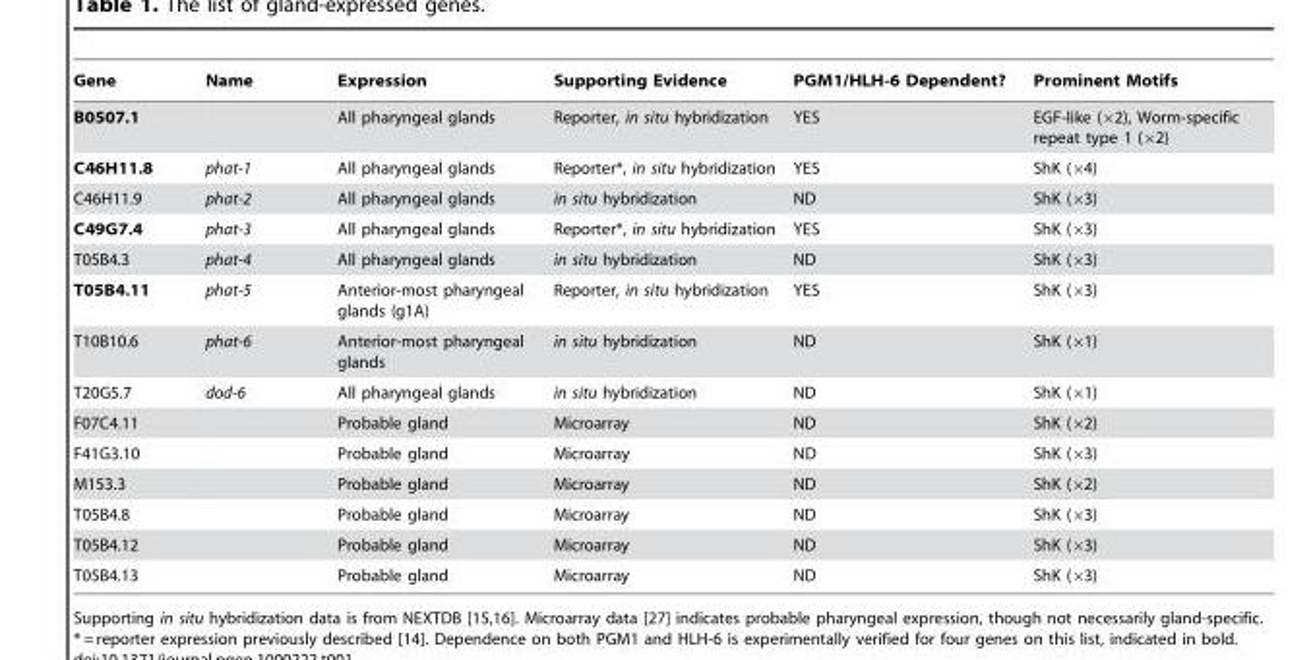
<table><thead><tr><td>Gene</td><td>Name</td><td>Expression</td><td>Supporting Evidence</td><td>PGM1/HLH-6 Dependent?</td><td>Prominent Motifs</td></tr></thead><tbody><tr><td>B0507.1</td><td></td><td>All pharyngeal glands</td><td>Reporter, in situ hybridization</td><td>YES</td><td>EGF-like (×2), Worm-specific repeat type 1 (×2)</td></tr><tr><td>C46H11.8</td><td>phat-1</td><td>All pharyngeal glands</td><td>Reporter*, in situ hybridization</td><td>YES</td><td>ShK (×4)</td></tr><tr><td>C46H11.9</td><td>phat-2</td><td>All pharyngeal glands</td><td>in situ hybridization</td><td>ND</td><td>ShK (×3)</td></tr><tr><td>C49G7.4</td><td>phat-3</td><td>All pharyngeal glands</td><td>Reporter*, in situ hybridization</td><td>YES</td><td>ShK (×3)</td></tr><tr><td>T05B4.3</td><td>phat-4</td><td>All pharyngeal glands</td><td>in situ hybridization</td><td>ND</td><td>ShK (×3)</td></tr><tr><td>T05B4.11</td><td>phat-5</td><td>Anterior-most pharyngeal glands (g1A)</td><td>Reporter, in situ hybridization</td><td>YES</td><td>ShK (×3)</td></tr><tr><td>T10B10.6</td><td>phat-6</td><td>Anterior-most pharyngeal glands</td><td>in situ hybridization</td><td>ND</td><td>ShK (×1)</td></tr><tr><td>T20G5.7</td><td>dod-6</td><td>All pharyngeal glands</td><td>in situ hybridization</td><td>ND</td><td>ShK (×1)</td></tr><tr><td>F07C4.11</td><td></td><td>Probable gland</td><td>Microarray</td><td>ND</td><td>ShK (×2)</td></tr><tr><td>F41G3.10</td><td></td><td>Probable gland</td><td>Microarray</td><td>ND</td><td>ShK (×3)</td></tr><tr><td>M153.3</td><td></td><td>Probable gland</td><td>Microarray</td><td>ND</td><td>ShK (×2)</td></tr><tr><td>T05B4.8</td><td></td><td>Probable gland</td><td>Microarray</td><td>ND</td><td>ShK (×3)</td></tr><tr><td>T05B4.12</td><td></td><td>Probable gland</td><td>Microarray</td><td>ND</td><td>ShK (×3)</td></tr><tr><td>T05B4.13</td><td></td><td>Probable gland</td><td>Microarray</td><td>ND</td><td>ShK (×3)</td></tr></tbody></table>